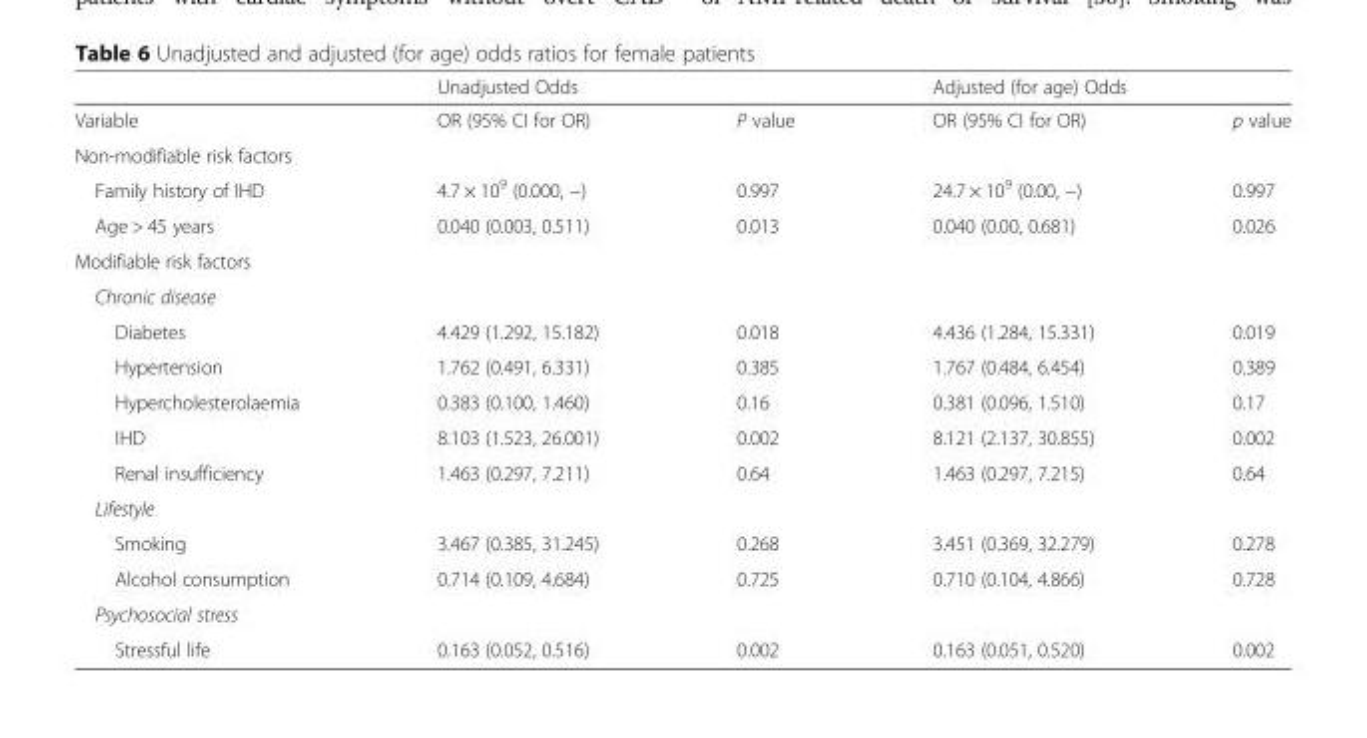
<table><thead><tr><td rowspan="2">Variable</td><td colspan="2">Unadjusted Odds</td><td colspan="2">Adjusted (for age) Odds</td></tr><tr><td>OR (95% CI for OR)</td><td>P value</td><td>OR (95% CI for OR)</td><td>p value</td></tr></thead><tbody><tr><td colspan="5">Non-modifiable risk factors</td></tr><tr><td>Family history of IHD</td><td>4.7 × 10<sup>9</sup> (0.000, −)</td><td>0.997</td><td>24.7 × 10<sup>9</sup> (0.00, −)</td><td>0.997</td></tr><tr><td>Age &gt; 45 years</td><td>0.040 (0.003, 0.511)</td><td>0.013</td><td>0.040 (0.00, 0.681)</td><td>0.026</td></tr><tr><td colspan="5">Modifiable risk factors</td></tr><tr><td colspan="5">Chronic disease</td></tr><tr><td>Diabetes</td><td>4.429 (1.292, 15.182)</td><td>0.018</td><td>4.436 (1.284, 15.331)</td><td>0.019</td></tr><tr><td>Hypertension</td><td>1.762 (0.491, 6.331)</td><td>0.385</td><td>1.767 (0.484, 6.454)</td><td>0.389</td></tr><tr><td>Hypercholesterolaemia</td><td>0.383 (0.100, 1.460)</td><td>0.16</td><td>0.381 (0.096, 1.510)</td><td>0.17</td></tr><tr><td>IHD</td><td>8.103 (1.523, 26.001)</td><td>0.002</td><td>8.121 (2.137, 30.855)</td><td>0.002</td></tr><tr><td>Renal insufficiency</td><td>1.463 (0.297, 7.211)</td><td>0.64</td><td>1.463 (0.297, 7.215)</td><td>0.64</td></tr><tr><td colspan="5">Lifestyle</td></tr><tr><td>Smoking</td><td>3.467 (0.385, 31.245)</td><td>0.268</td><td>3.451 (0.369, 32.279)</td><td>0.278</td></tr><tr><td>Alcohol consumption</td><td>0.714 (0.109, 4.684)</td><td>0.725</td><td>0.710 (0.104, 4.866)</td><td>0.728</td></tr><tr><td colspan="5">Psychosocial stress</td></tr><tr><td>Stressful life</td><td>0.163 (0.052, 0.516)</td><td>0.002</td><td>0.163 (0.051, 0.520)</td><td>0.002</td></tr></tbody></table>